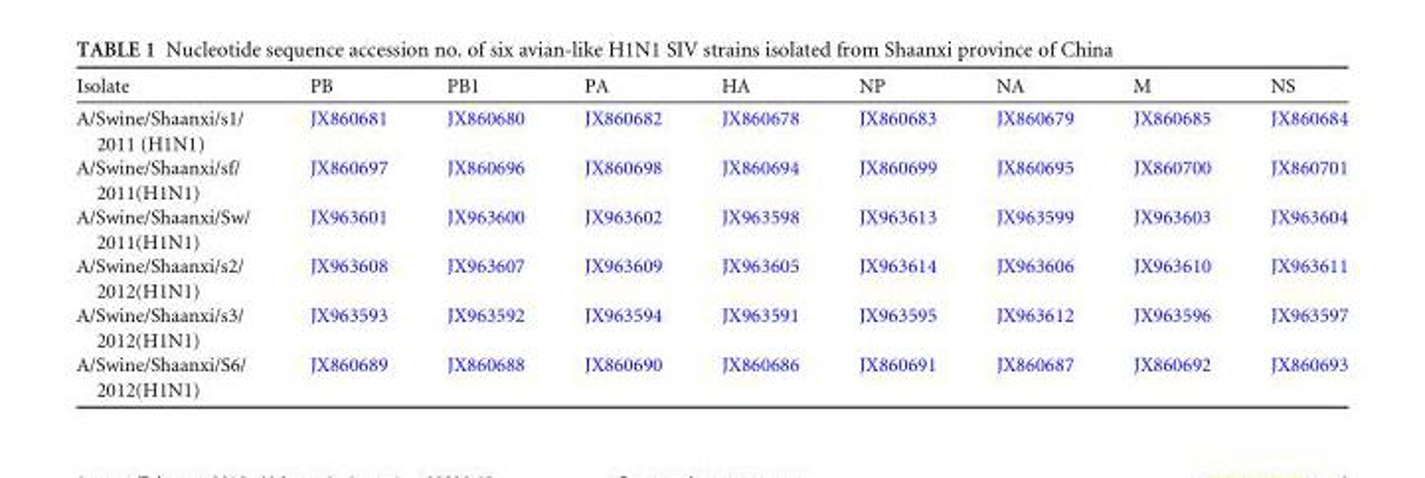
<table><thead><tr><td>Isolate</td><td>PB</td><td>PB1</td><td>PA</td><td>HA</td><td>NP</td><td>NA</td><td>M</td><td>NS</td></tr></thead><tbody><tr><td>A/Swine/Shaanxi/s1/ 2011 (H1N1)</td><td>JX860681</td><td>JX860680</td><td>JX860682</td><td>JX860678</td><td>JX860683</td><td>JX860679</td><td>JX860685</td><td>JX860684</td></tr><tr><td>A/Swine/Shaanxi/sf/ 2011(H1N1)</td><td>JX860697</td><td>JX860696</td><td>JX860698</td><td>JX860694</td><td>JX860699</td><td>JX860695</td><td>JX860700</td><td>JX860701</td></tr><tr><td>A/Swine/Shaanxi/Sw/ 2011(H1N1)</td><td>JX963601</td><td>JX963600</td><td>JX963602</td><td>JX963598</td><td>JX963613</td><td>JX963599</td><td>JX963603</td><td>JX963604</td></tr><tr><td>A/Swine/Shaanxi/s2/ 2012(H1N1)</td><td>JX963608</td><td>JX963607</td><td>JX963609</td><td>JX963605</td><td>JX963614</td><td>JX963606</td><td>JX963610</td><td>JX963611</td></tr><tr><td>A/Swine/Shaanxi/s3/ 2012(H1N1)</td><td>JX963593</td><td>JX963592</td><td>JX963594</td><td>JX963591</td><td>JX963595</td><td>JX963612</td><td>JX963596</td><td>JX963597</td></tr><tr><td>A/Swine/Shaanxi/S6/ 2012(H1N1)</td><td>JX860689</td><td>JX860688</td><td>JX860690</td><td>JX860686</td><td>JX860691</td><td>JX860687</td><td>JX860692</td><td>JX860693</td></tr></tbody></table>